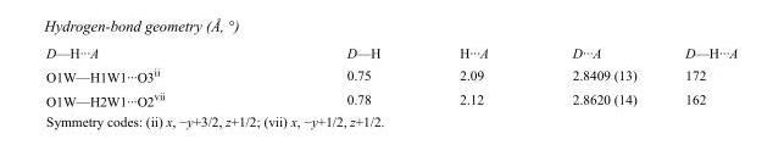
<table><tbody><tr><td>D—H···A</td><td>D—H</td><td>H···A</td><td>D···A</td><td>D—H···A</td></tr><tr><td>O1W—H1W1···O3<sup>ii</sup></td><td>0.75</td><td>2.09</td><td>2.8409 (13)</td><td>172</td></tr><tr><td>O1W—H2W1···O2<sup>vii</sup></td><td>0.78</td><td>2.12</td><td>2.8620 (14)</td><td>162</td></tr></tbody></table>